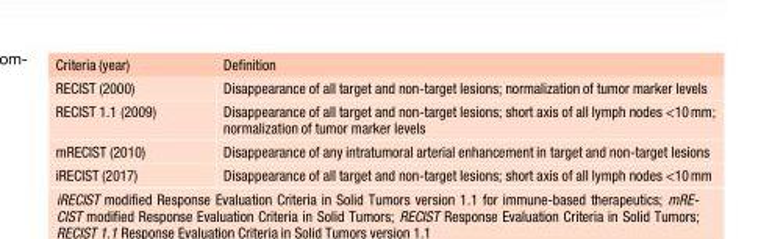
<table><thead><tr><td>Criteria (year)</td><td>Definition</td></tr></thead><tbody><tr><td>RECIST (2000)</td><td>Disappearance of all target and non-target lesions; normalization of tumor marker levels</td></tr><tr><td>RECIST 1.1 (2009)</td><td>Disappearance of all target and non-target lesions; short axis of all lymph nodes &lt;10mm; normalization of tumor marker levels</td></tr><tr><td>mRECIST (2010)</td><td>Disappearance of any intratumoral arterial enhancement in target and non-target lesions</td></tr><tr><td>iRECIST (2017)</td><td>Disappearance of all target and non-target lesions; short axis of all lymph nodes &lt;10mm</td></tr></tbody></table>